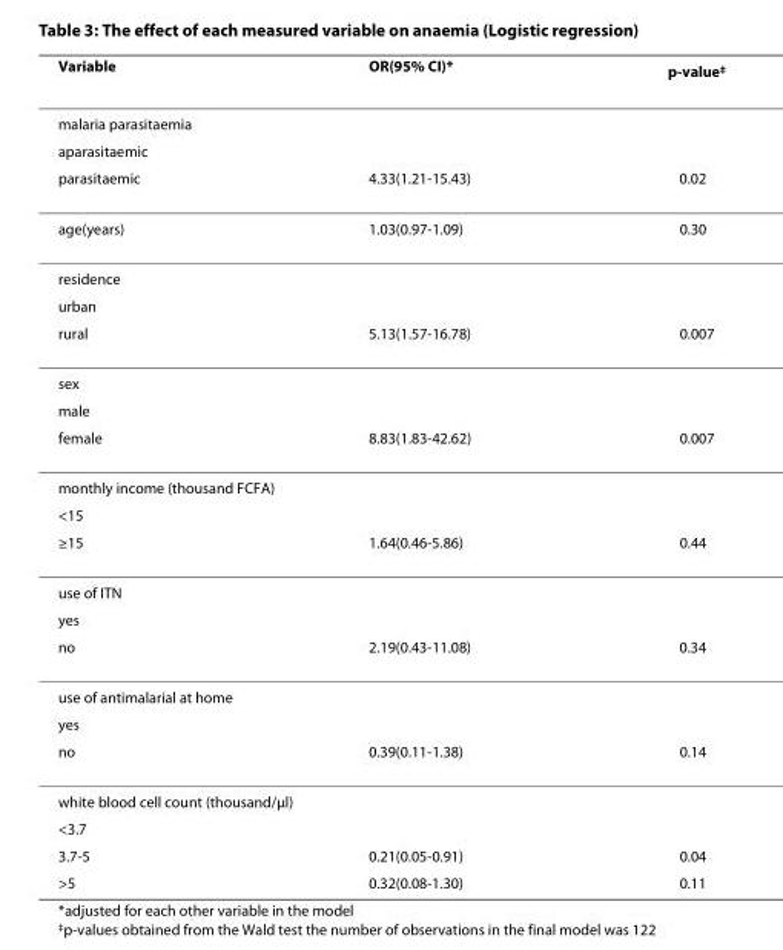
<table><thead><tr><td>Variable</td><td>OR(95% CI)*</td><td>p-value<sup>‡</sup></td></tr></thead><tbody><tr><td colspan="3">malaria parasitaemia</td></tr><tr><td colspan="3">aparasitaemic</td></tr><tr><td>parasitaemic</td><td>4.33(1.21-15.43)</td><td>0.02</td></tr><tr><td>age(years)</td><td>1.03(0.97-1.09)</td><td>0.30</td></tr><tr><td colspan="3">residence</td></tr><tr><td colspan="3">urban</td></tr><tr><td>rural</td><td>5.13(1.57-16.78)</td><td>0.007</td></tr><tr><td colspan="3">sex</td></tr><tr><td colspan="3">male</td></tr><tr><td>female</td><td>8.83(1.83-42.62)</td><td>0.007</td></tr><tr><td colspan="3">monthly income (thousand FCFA)</td></tr><tr><td colspan="3">&lt;15</td></tr><tr><td>≥15</td><td>1.64(0.46-5.86)</td><td>0.44</td></tr><tr><td colspan="3">use of ITN</td></tr><tr><td colspan="3">yes</td></tr><tr><td>no</td><td>2.19(0.43-11.08)</td><td>0.34</td></tr><tr><td colspan="3">use of antimalarial at home</td></tr><tr><td colspan="3">yes</td></tr><tr><td>no</td><td>0.39(0.11-1.38)</td><td>0.14</td></tr><tr><td colspan="3">white blood cell count (thousand/μl)</td></tr><tr><td colspan="3">&lt;3.7</td></tr><tr><td>3.7-5</td><td>0.21(0.05-0.91)</td><td>0.04</td></tr><tr><td>&gt;5</td><td>0.32(0.08-1.30)</td><td>0.11</td></tr></tbody></table>